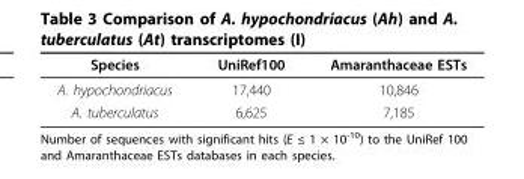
<table><thead><tr><td>Species</td><td>UniRef100</td><td>Amaranthaceae ESTs</td></tr></thead><tbody><tr><td>A. hypochondriacus</td><td>17,440</td><td>10,846</td></tr><tr><td>A. tuberculatus</td><td>6,625</td><td>7,185</td></tr></tbody></table>